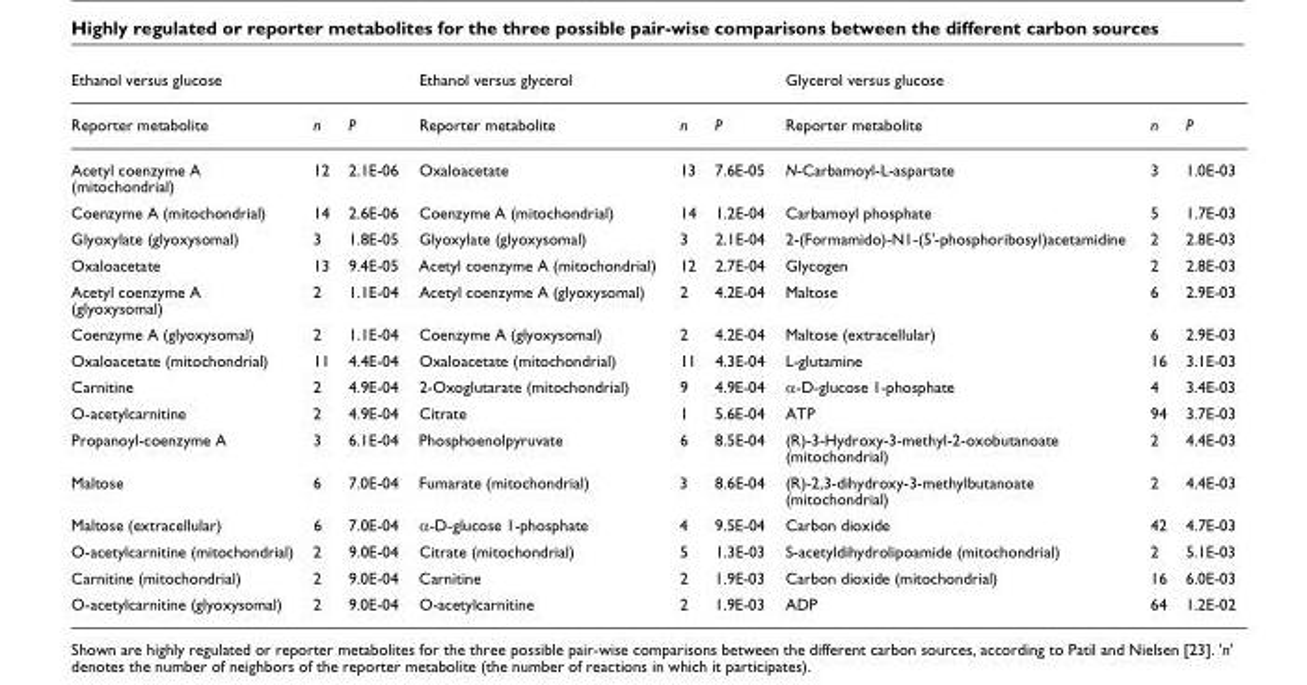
<table><thead><tr><td colspan="3">Ethanol versus glucose</td><td colspan="3">Ethanol versus glycerol</td><td colspan="3">Glycerol versus glucose</td></tr><tr><td>Reporter metabolite</td><td>n</td><td>P</td><td>Reporter metabolite</td><td>n</td><td>P</td><td>Reporter metabolite</td><td>n</td><td>P</td></tr></thead><tbody><tr><td>Acetyl coenzyme A (mitochondrial)</td><td>12</td><td>2.1E-06</td><td>Oxaloacetate</td><td>13</td><td>7.6E-05</td><td>N-Carbamoyl-L-aspartate</td><td>3</td><td>1.0E-03</td></tr><tr><td>Coenzyme A (mitochondrial)</td><td>14</td><td>2.6E-06</td><td>Coenzyme A (mitochondrial)</td><td>14</td><td>1.2E-04</td><td>Carbamoyl phosphate</td><td>5</td><td>1.7E-03</td></tr><tr><td>Glyoxylate (glyoxysomal)</td><td>3</td><td>1.8E-05</td><td>Glyoxylate (glyoxysomal)</td><td>3</td><td>2.1E-04</td><td>2-(Formamido)-N1-(5&#x27;-phosphoribosyl)acetamidine</td><td>2</td><td>2.8E-03</td></tr><tr><td>Oxaloacetate</td><td>13</td><td>9.4E-05</td><td>Acetyl coenzyme A (mitochondrial)</td><td>12</td><td>2.7E-04</td><td>Glycogen</td><td>2</td><td>2.8E-03</td></tr><tr><td>Acetyl coenzyme A (glyoxysomal)</td><td>2</td><td>1.1E-04</td><td>Acetyl coenzyme A (glyoxysomal)</td><td>2</td><td>4.2E-04</td><td>Maltose</td><td>6</td><td>2.9E-03</td></tr><tr><td>Coenzyme A (glyoxysomal)</td><td>2</td><td>1.1E-04</td><td>Coenzyme A (glyoxysomal)</td><td>2</td><td>4.2E-04</td><td>Maltose (extracellular)</td><td>6</td><td>2.9E-03</td></tr><tr><td>Oxaloacetate (mitochondrial)</td><td>11</td><td>4.4E-04</td><td>Oxaloacetate (mitochondrial)</td><td>11</td><td>4.3E-04</td><td>L-glutamine</td><td>16</td><td>3.1E-03</td></tr><tr><td>Carnitine</td><td>2</td><td>4.9E-04</td><td>2-Oxoglutarate (mitochondrial)</td><td>9</td><td>4.9E-04</td><td>α-D-glucose 1-phosphate</td><td>4</td><td>3.4E-03</td></tr><tr><td>O-acetylcarnitine</td><td>2</td><td>4.9E-04</td><td>Citrate</td><td>1</td><td>5.6E-04</td><td>ATP</td><td>94</td><td>3.7E-03</td></tr><tr><td>Propanoyl-coenzyme A</td><td>3</td><td>6.1E-04</td><td>Phosphoenolpyruvate</td><td>6</td><td>8.5E-04</td><td>(R)-3-Hydroxy-3-methyl-2-oxobutanoate (mitochondrial)</td><td>2</td><td>4.4E-03</td></tr><tr><td>Maltose</td><td>6</td><td>7.0E-04</td><td>Fumarate (mitochondrial)</td><td>3</td><td>8.6E-04</td><td>(R)-2,3-dihydroxy-3-methylbutanoate (mitochondrial)</td><td>2</td><td>4.4E-03</td></tr><tr><td>Maltose (extracellular)</td><td>6</td><td>7.0E-04</td><td>α-D-glucose 1-phosphate</td><td>4</td><td>9.5E-04</td><td>Carbon dioxide</td><td>42</td><td>4.7E-03</td></tr><tr><td>O-acetylcarnitine (mitochondrial)</td><td>2</td><td>9.0E-04</td><td>Citrate (mitochondrial)</td><td>5</td><td>1.3E-03</td><td>S-acetyldihydrolipoamide (mitochondrial)</td><td>2</td><td>5.1E-03</td></tr><tr><td>Carnitine (mitochondrial)</td><td>2</td><td>9.0E-04</td><td>Carnitine</td><td>2</td><td>1.9E-03</td><td>Carbon dioxide (mitochondrial)</td><td>16</td><td>6.0E-03</td></tr><tr><td>O-acetylcarnitine (glyoxysomal)</td><td>2</td><td>9.0E-04</td><td>O-acetylcarnitine</td><td>2</td><td>1.9E-03</td><td>ADP</td><td>64</td><td>1.2E-02</td></tr></tbody></table>